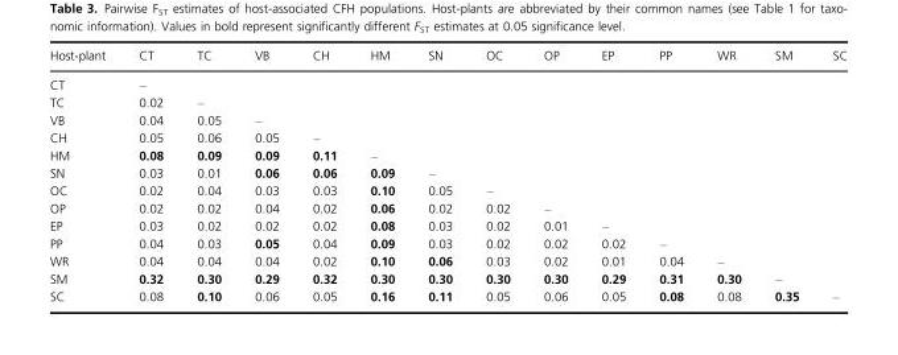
<table><thead><tr><td>Host-plant</td><td>CT</td><td>TC</td><td>VB</td><td>CH</td><td>HM</td><td>SN</td><td>OC</td><td>OP</td><td>EP</td><td>PP</td><td>WR</td><td>SM</td><td>SC</td></tr></thead><tbody><tr><td>CT</td><td>–</td><td></td><td></td><td></td><td></td><td></td><td></td><td></td><td></td><td></td><td></td><td></td><td></td></tr><tr><td>TC</td><td>0.02</td><td>–</td><td></td><td></td><td></td><td></td><td></td><td></td><td></td><td></td><td></td><td></td><td></td></tr><tr><td>VB</td><td>0.04</td><td>0.05</td><td>–</td><td></td><td></td><td></td><td></td><td></td><td></td><td></td><td></td><td></td><td></td></tr><tr><td>CH</td><td>0.05</td><td>0.06</td><td>0.05</td><td>–</td><td></td><td></td><td></td><td></td><td></td><td></td><td></td><td></td><td></td></tr><tr><td>HM</td><td>0.08</td><td>0.09</td><td>0.09</td><td>0.11</td><td>–</td><td></td><td></td><td></td><td></td><td></td><td></td><td></td><td></td></tr><tr><td>SN</td><td>0.03</td><td>0.01</td><td>0.06</td><td>0.06</td><td>0.09</td><td>–</td><td></td><td></td><td></td><td></td><td></td><td></td><td></td></tr><tr><td>OC</td><td>0.02</td><td>0.04</td><td>0.03</td><td>0.03</td><td>0.10</td><td>0.05</td><td>–</td><td></td><td></td><td></td><td></td><td></td><td></td></tr><tr><td>OP</td><td>0.02</td><td>0.02</td><td>0.04</td><td>0.02</td><td>0.06</td><td>0.02</td><td>0.02</td><td>–</td><td></td><td></td><td></td><td></td><td></td></tr><tr><td>EP</td><td>0.03</td><td>0.02</td><td>0.02</td><td>0.02</td><td>0.08</td><td>0.03</td><td>0.02</td><td>0.01</td><td>–</td><td></td><td></td><td></td><td></td></tr><tr><td>PP</td><td>0.04</td><td>0.03</td><td>0.05</td><td>0.04</td><td>0.09</td><td>0.03</td><td>0.02</td><td>0.02</td><td>0.02</td><td>–</td><td></td><td></td><td></td></tr><tr><td>WR</td><td>0.04</td><td>0.04</td><td>0.04</td><td>0.02</td><td>0.10</td><td>0.06</td><td>0.03</td><td>0.02</td><td>0.01</td><td>0.04</td><td>–</td><td></td><td></td></tr><tr><td>SM</td><td>0.32</td><td>0.30</td><td>0.29</td><td>0.32</td><td>0.30</td><td>0.30</td><td>0.30</td><td>0.30</td><td>0.29</td><td>0.31</td><td>0.30</td><td>–</td><td></td></tr><tr><td>SC</td><td>0.08</td><td>0.10</td><td>0.06</td><td>0.05</td><td>0.16</td><td>0.11</td><td>0.05</td><td>0.06</td><td>0.05</td><td>0.08</td><td>0.08</td><td>0.35</td><td>–</td></tr></tbody></table>